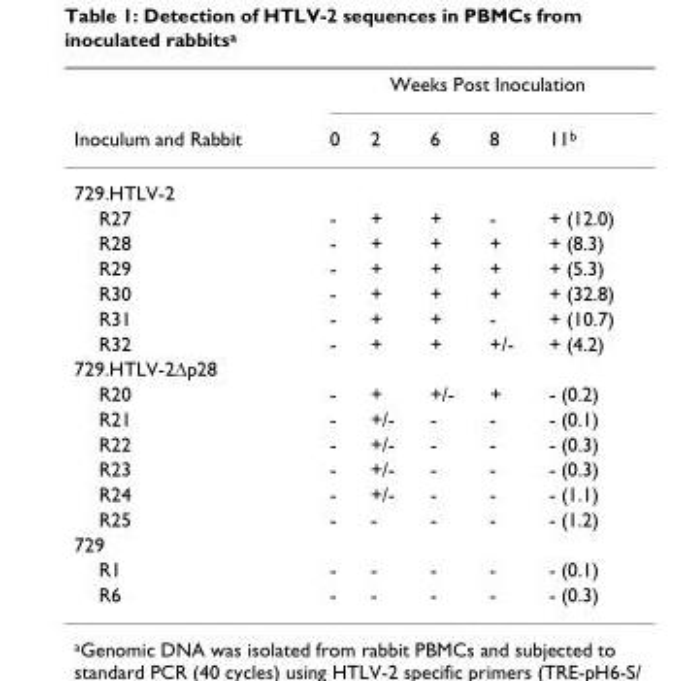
<table><thead><tr><td rowspan="2">Inoculum and Rabbit</td><td colspan="5">Weeks Post Inoculation</td></tr><tr><td>0</td><td>2</td><td>6</td><td>8</td><td>11<sup>b</sup></td></tr></thead><tbody><tr><td colspan="6">729.HTLV-2</td></tr><tr><td>R27</td><td>-</td><td>+</td><td>+</td><td>-</td><td>+ (12.0)</td></tr><tr><td>R28</td><td>-</td><td>+</td><td>+</td><td>+</td><td>+ (8.3)</td></tr><tr><td>R29</td><td>-</td><td>+</td><td>+</td><td>+</td><td>+ (5.3)</td></tr><tr><td>R30</td><td>-</td><td>+</td><td>+</td><td>+</td><td>+ (32.8)</td></tr><tr><td>R31</td><td>-</td><td>+</td><td>+</td><td>-</td><td>+ (10.7)</td></tr><tr><td>R32</td><td>-</td><td>+</td><td>+</td><td>+/-</td><td>+ (4.2)</td></tr><tr><td colspan="6">729.HTLV-2Δp28</td></tr><tr><td>R20</td><td>-</td><td>+</td><td>+/-</td><td>+</td><td>- (0.2)</td></tr><tr><td>R21</td><td>-</td><td>+/-</td><td>-</td><td>-</td><td>- (0.1)</td></tr><tr><td>R22</td><td>-</td><td>+/-</td><td>-</td><td>-</td><td>- (0.3)</td></tr><tr><td>R23</td><td>-</td><td>+/-</td><td>-</td><td>-</td><td>- (0.3)</td></tr><tr><td>R24</td><td>-</td><td>+/-</td><td>-</td><td>-</td><td>- (1.1)</td></tr><tr><td>R25</td><td>-</td><td>-</td><td>-</td><td>-</td><td>- (1.2)</td></tr><tr><td colspan="6">729</td></tr><tr><td>R1</td><td>-</td><td>-</td><td>-</td><td>-</td><td>- (0.1)</td></tr><tr><td>R6</td><td>-</td><td>-</td><td>-</td><td>-</td><td>- (0.3)</td></tr></tbody></table>